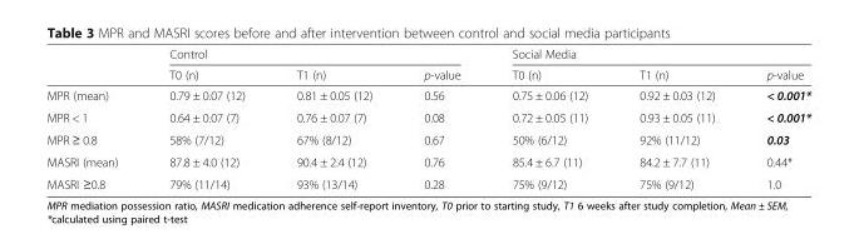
<table><thead><tr><td rowspan="2"></td><td colspan="3">Control</td><td colspan="3">Social Media</td></tr><tr><td>T0 (n)</td><td>T1 (n)</td><td>p-value</td><td>T0 (n)</td><td>T1 (n)</td><td>p-value</td></tr></thead><tbody><tr><td>MPR (mean)</td><td>0.79 ± 0.07 (12)</td><td>0.81 ± 0.05 (12)</td><td>0.56</td><td>0.75 ± 0.06 (12)</td><td>0.92 ± 0.03 (12)</td><td>&lt; 0.001*</td></tr><tr><td>MPR &lt; 1</td><td>0.64 ± 0.07 (7)</td><td>0.76 ± 0.07 (7)</td><td>0.08</td><td>0.72 ± 0.05 (11)</td><td>0.93 ± 0.05 (11)</td><td>&lt; 0.001*</td></tr><tr><td>MPR ≥ 0.8</td><td>58% (7/12)</td><td>67% (8/12)</td><td>0.67</td><td>50% (6/12)</td><td>92% (11/12)</td><td>0.03</td></tr><tr><td>MASRI (mean)</td><td>87.8 ± 4.0 (12)</td><td>90.4 ± 2.4 (12)</td><td>0.76</td><td>85.4 ± 6.7 (11)</td><td>84.2 ± 7.7 (11)</td><td>0.44*</td></tr><tr><td>MASRI ≥0.8</td><td>79% (11/14)</td><td>93% (13/14)</td><td>0.28</td><td>75% (9/12)</td><td>75% (9/12)</td><td>1.0</td></tr></tbody></table>